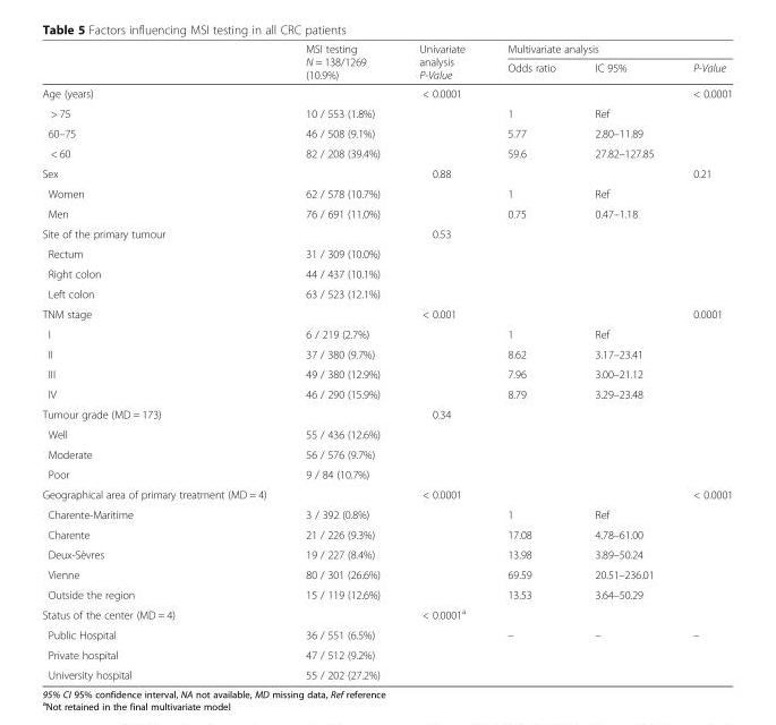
<table><thead><tr><td rowspan="2"></td><td rowspan="2">MSI testing N = 138/1269 (10.9%)</td><td rowspan="2">Univariate analysis P-Value</td><td colspan="3">Multivariate analysis</td></tr><tr><td>Odds ratio</td><td>IC 95%</td><td>P-Value</td></tr></thead><tbody><tr><td>Age (years)</td><td></td><td>&lt; 0.0001</td><td></td><td></td><td>&lt; 0.0001</td></tr><tr><td>&gt; 75</td><td>10 / 553 (1.8%)</td><td></td><td>1</td><td>Ref</td><td></td></tr><tr><td>60–75</td><td>46 / 508 (9.1%)</td><td></td><td>5.77</td><td>2.80–11.89</td><td></td></tr><tr><td>&lt; 60</td><td>82 / 208 (39.4%)</td><td></td><td>59.6</td><td>27.82–127.85</td><td></td></tr><tr><td>Sex</td><td></td><td>0.88</td><td></td><td></td><td>0.21</td></tr><tr><td>Women</td><td>62 / 578 (10.7%)</td><td></td><td>1</td><td>Ref</td><td></td></tr><tr><td>Men</td><td>76 / 691 (11.0%)</td><td></td><td>0.75</td><td>0.47–1.18</td><td></td></tr><tr><td>Site of the primary tumour</td><td></td><td>0.53</td><td></td><td></td><td></td></tr><tr><td>Rectum</td><td>31 / 309 (10.0%)</td><td></td><td></td><td></td><td></td></tr><tr><td>Right colon</td><td>44 / 437 (10.1%)</td><td></td><td></td><td></td><td></td></tr><tr><td>Left colon</td><td>63 / 523 (12.1%)</td><td></td><td></td><td></td><td></td></tr><tr><td>TNM stage</td><td></td><td>&lt; 0.001</td><td></td><td></td><td>0.0001</td></tr><tr><td>I</td><td>6 / 219 (2.7%)</td><td></td><td>1</td><td>Ref</td><td></td></tr><tr><td>II</td><td>37 / 380 (9.7%)</td><td></td><td>8.62</td><td>3.17–23.41</td><td></td></tr><tr><td>III</td><td>49 / 380 (12.9%)</td><td></td><td>7.96</td><td>3.00–21.12</td><td></td></tr><tr><td>IV</td><td>46 / 290 (15.9%)</td><td></td><td>8.79</td><td>3.29–23.48</td><td></td></tr><tr><td>Tumour grade (MD = 173)</td><td></td><td>0.34</td><td></td><td></td><td></td></tr><tr><td>Well</td><td>55 / 436 (12.6%)</td><td></td><td></td><td></td><td></td></tr><tr><td>Moderate</td><td>56 / 576 (9.7%)</td><td></td><td></td><td></td><td></td></tr><tr><td>Poor</td><td>9 / 84 (10.7%)</td><td></td><td></td><td></td><td></td></tr><tr><td>Geographical area of primary treatment (MD = 4)</td><td></td><td>&lt; 0.0001</td><td></td><td></td><td>&lt; 0.0001</td></tr><tr><td>Charente-Maritime</td><td>3 / 392 (0.8%)</td><td></td><td>1</td><td>Ref</td><td></td></tr><tr><td>Charente</td><td>21 / 226 (9.3%)</td><td></td><td>17.08</td><td>4.78–61.00</td><td></td></tr><tr><td>Deux-Sèvres</td><td>19 / 227 (8.4%)</td><td></td><td>13.98</td><td>3.89–50.24</td><td></td></tr><tr><td>Vienne</td><td>80 / 301 (26.6%)</td><td></td><td>69.59</td><td>20.51–236.01</td><td></td></tr><tr><td>Outside the region</td><td>15 / 119 (12.6%)</td><td></td><td>13.53</td><td>3.64–50.29</td><td></td></tr><tr><td>Status of the center (MD = 4)</td><td></td><td>&lt; 0.0001<sup>a</sup></td><td></td><td></td><td></td></tr><tr><td>Public Hospital</td><td>36 / 551 (6.5%)</td><td></td><td>–</td><td>–</td><td>–</td></tr><tr><td>Private hospital</td><td>47 / 512 (9.2%)</td><td></td><td></td><td></td><td></td></tr><tr><td>University hospital</td><td>55 / 202 (27.2%)</td><td></td><td></td><td></td><td></td></tr></tbody></table>